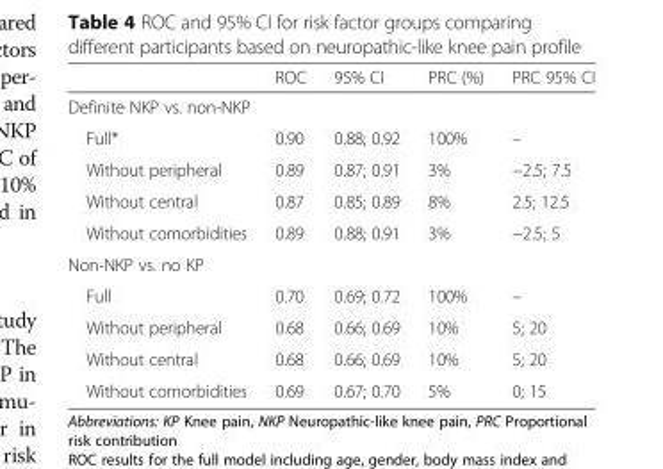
<table><thead><tr><td></td><td>ROC</td><td>95% CI</td><td>PRC (%)</td><td>PRC 95% CI</td></tr></thead><tbody><tr><td colspan="5">Definite NKP vs. non-NKP</td></tr><tr><td>Full*</td><td>0.90</td><td>0.88; 0.92</td><td>100%</td><td>–</td></tr><tr><td>Without peripheral</td><td>0.89</td><td>0.87; 0.91</td><td>3%</td><td>−2.5; 7.5</td></tr><tr><td>Without central</td><td>0.87</td><td>0.85; 0.89</td><td>8%</td><td>2.5; 12.5</td></tr><tr><td>Without comorbidities</td><td>0.89</td><td>0.88; 0.91</td><td>3%</td><td>−2.5; 5</td></tr><tr><td colspan="5">Non-NKP vs. no KP</td></tr><tr><td>Full</td><td>0.70</td><td>0.69; 0.72</td><td>100%</td><td>–</td></tr><tr><td>Without peripheral</td><td>0.68</td><td>0.66; 0.69</td><td>10%</td><td>5; 20</td></tr><tr><td>Without central</td><td>0.68</td><td>0.66; 0.69</td><td>10%</td><td>5; 20</td></tr><tr><td>Without comorbidities</td><td>0.69</td><td>0.67; 0.70</td><td>5%</td><td>0; 15</td></tr></tbody></table>